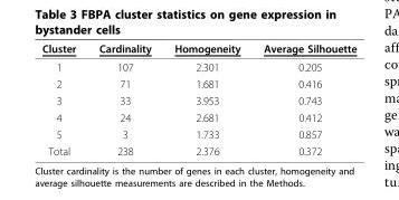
<table><thead><tr><td>Cluster</td><td>Cardinality</td><td>Homogeneity</td><td>Average Silhouette</td></tr></thead><tbody><tr><td>1</td><td>107</td><td>2.301</td><td>0.205</td></tr><tr><td>2</td><td>71</td><td>1.681</td><td>0.416</td></tr><tr><td>3</td><td>33</td><td>3.953</td><td>0.743</td></tr><tr><td>4</td><td>24</td><td>2.681</td><td>0.412</td></tr><tr><td>5</td><td>3</td><td>1.733</td><td>0.857</td></tr><tr><td>Total</td><td>238</td><td>2.376</td><td>0.372</td></tr></tbody></table>